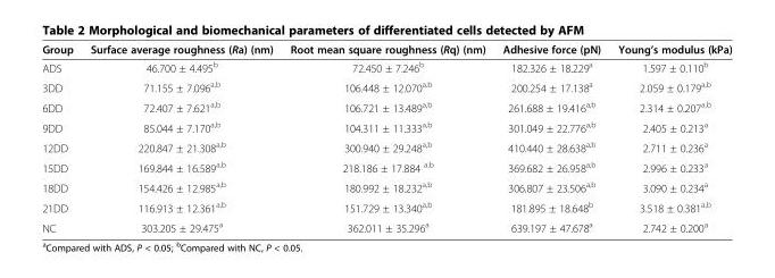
<table><thead><tr><td>Group</td><td>Surface average roughness (Ra) (nm)</td><td>Root mean square roughness (Rq) (nm)</td><td>Adhesive force (pN)</td><td>Young’s modulus (kPa)</td></tr></thead><tbody><tr><td>ADS</td><td>46.700 ± 4.495<sup>b</sup></td><td>72.450 ± 7.246<sup>b</sup></td><td>182.326 ± 18.229<sup>a</sup></td><td>1.597 ± 0.110<sup>b</sup></td></tr><tr><td>3DD</td><td>71.155 ± 7.096<sup>a,b</sup></td><td>106.448 ± 12.070<sup>a,b</sup></td><td>200.254 ± 17.138<sup>a</sup></td><td>2.059 ± 0.179<sup>a,b</sup></td></tr><tr><td>6DD</td><td>72.407 ± 7.621<sup>a,b</sup></td><td>106.721 ± 13.489<sup>a,b</sup></td><td>261.688 ± 19.416<sup>a,b</sup></td><td>2.314 ± 0.207<sup>a,b</sup></td></tr><tr><td>9DD</td><td>85.044 ± 7.170<sup>a,b</sup></td><td>104.311 ± 11.333<sup>a,b</sup></td><td>301.049 ± 22.776<sup>a,b</sup></td><td>2.405 ± 0.213<sup>a</sup></td></tr><tr><td>12DD</td><td>220.847 ± 21.308<sup>a,b</sup></td><td>300.940 ± 29.248<sup>a,b</sup></td><td>410.440 ± 28.638<sup>a,b</sup></td><td>2.711 ± 0.236<sup>a</sup></td></tr><tr><td>15DD</td><td>169.844 ± 16.589<sup>a,b</sup></td><td>218.186 ± 17.884 <sup>a,b</sup></td><td>369.682 ± 26.958<sup>a,b</sup></td><td>2.996 ± 0.233<sup>a</sup></td></tr><tr><td>18DD</td><td>154.426 ± 12.985<sup>a,b</sup></td><td>180.992 ± 18.232<sup>a,b</sup></td><td>306.807 ± 23.506<sup>a,b</sup></td><td>3.090 ± 0.234<sup>a</sup></td></tr><tr><td>21DD</td><td>116.913 ± 12.361<sup>a,b</sup></td><td>151.729 ± 13.340<sup>a,b</sup></td><td>181.895 ± 18.648<sup>b</sup></td><td>3.518 ± 0.381<sup>a,b</sup></td></tr><tr><td>NC</td><td>303.205 ± 29.475<sup>a</sup></td><td>362.011 ± 35.296<sup>a</sup></td><td>639.197 ± 47.678<sup>a</sup></td><td>2.742 ± 0.200<sup>a</sup></td></tr></tbody></table>